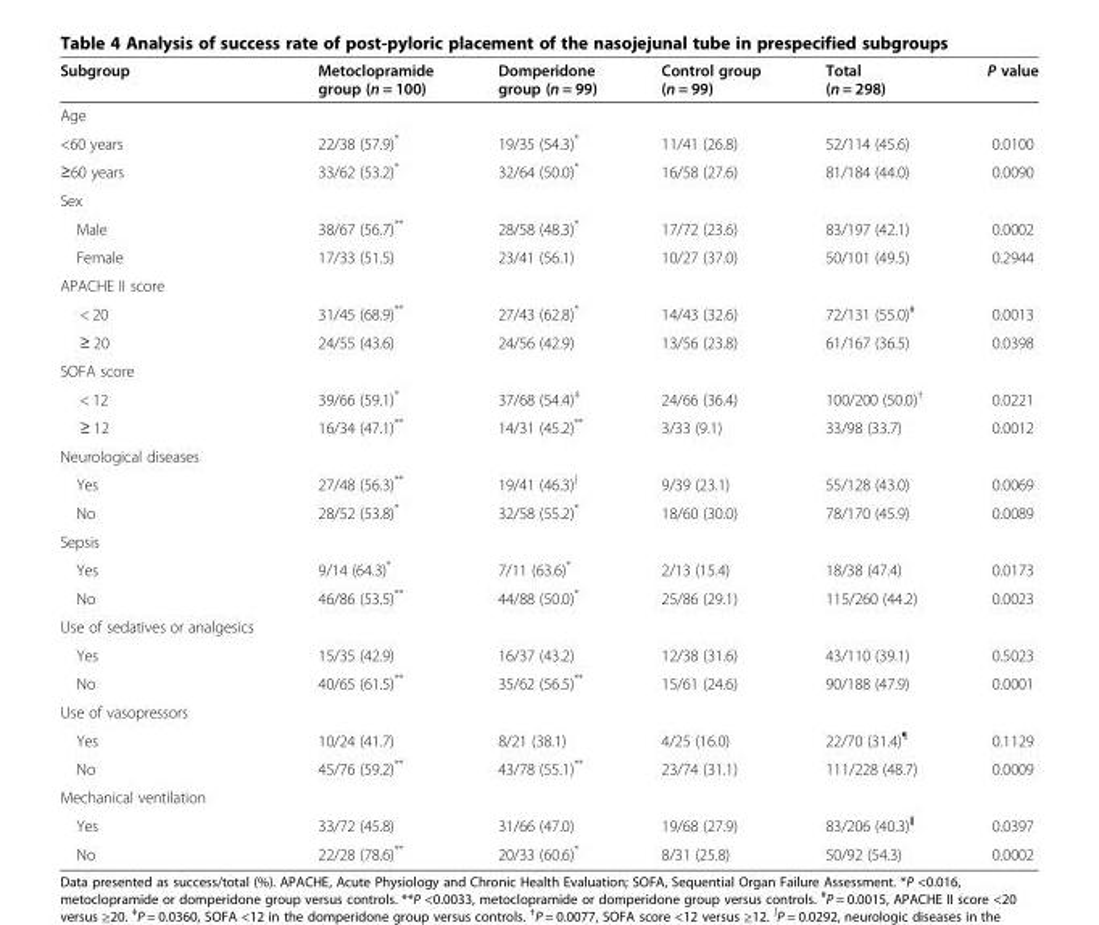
<table><thead><tr><td>Subgroup</td><td>Metoclopramide group (n = 100)</td><td>Domperidone group (n = 99)</td><td>Control group (n = 99)</td><td>Total (n = 298)</td><td>P value</td></tr></thead><tbody><tr><td colspan="6">Age</td></tr><tr><td>&lt;60 years</td><td>22/38 (57.9)*</td><td>19/35 (54.3)*</td><td>11/41 (26.8)</td><td>52/114 (45.6)</td><td>0.0100</td></tr><tr><td>≥60 years</td><td>33/62 (53.2)*</td><td>32/64 (50.0)*</td><td>16/58 (27.6)</td><td>81/184 (44.0)</td><td>0.0090</td></tr><tr><td colspan="6">Sex</td></tr><tr><td>Male</td><td>38/67 (56.7)**</td><td>28/58 (48.3)*</td><td>17/72 (23.6)</td><td>83/197 (42.1)</td><td>0.0002</td></tr><tr><td>Female</td><td>17/33 (51.5)</td><td>23/41 (56.1)</td><td>10/27 (37.0)</td><td>50/101 (49.5)</td><td>0.2944</td></tr><tr><td colspan="6">APACHE II score</td></tr><tr><td>&lt; 20</td><td>31/45 (68.9)**</td><td>27/43 (62.8)*</td><td>14/43 (32.6)</td><td>72/131 (55.0)<sup>#</sup></td><td>0.0013</td></tr><tr><td>≥ 20</td><td>24/55 (43.6)</td><td>24/56 (42.9)</td><td>13/56 (23.8)</td><td>61/167 (36.5)</td><td>0.0398</td></tr><tr><td colspan="6">SOFA score</td></tr><tr><td>&lt; 12</td><td>39/66 (59.1)*</td><td>37/68 (54.4)<sup>‡</sup></td><td>24/66 (36.4)</td><td>100/200 (50.0)<sup>†</sup></td><td>0.0221</td></tr><tr><td>≥ 12</td><td>16/34 (47.1)**</td><td>14/31 (45.2)**</td><td>3/33 (9.1)</td><td>33/98 (33.7)</td><td>0.0012</td></tr><tr><td colspan="6">Neurological diseases</td></tr><tr><td>Yes</td><td>27/48 (56.3)**</td><td>19/41 (46.3)<sup>∫</sup></td><td>9/39 (23.1)</td><td>55/128 (43.0)</td><td>0.0069</td></tr><tr><td>No</td><td>28/52 (53.8)*</td><td>32/58 (55.2)*</td><td>18/60 (30.0)</td><td>78/170 (45.9)</td><td>0.0089</td></tr><tr><td colspan="6">Sepsis</td></tr><tr><td>Yes</td><td>9/14 (64.3)*</td><td>7/11 (63.6)*</td><td>2/13 (15.4)</td><td>18/38 (47.4)</td><td>0.0173</td></tr><tr><td>No</td><td>46/86 (53.5)**</td><td>44/88 (50.0)*</td><td>25/86 (29.1)</td><td>115/260 (44.2)</td><td>0.0023</td></tr><tr><td colspan="6">Use of sedatives or analgesics</td></tr><tr><td>Yes</td><td>15/35 (42.9)</td><td>16/37 (43.2)</td><td>12/38 (31.6)</td><td>43/110 (39.1)</td><td>0.5023</td></tr><tr><td>No</td><td>40/65 (61.5)**</td><td>35/62 (56.5)**</td><td>15/61 (24.6)</td><td>90/188 (47.9)</td><td>0.0001</td></tr><tr><td colspan="6">Use of vasopressors</td></tr><tr><td>Yes</td><td>10/24 (41.7)</td><td>8/21 (38.1)</td><td>4/25 (16.0)</td><td>22/70 (31.4)<sup>¶</sup></td><td>0.1129</td></tr><tr><td>No</td><td>45/76 (59.2)**</td><td>43/78 (55.1)**</td><td>23/74 (31.1)</td><td>111/228 (48.7)</td><td>0.0009</td></tr><tr><td colspan="6">Mechanical ventilation</td></tr><tr><td>Yes</td><td>33/72 (45.8)</td><td>31/66 (47.0)</td><td>19/68 (27.9)</td><td>83/206 (40.3)<sup>‖</sup></td><td>0.0397</td></tr><tr><td>No</td><td>22/28 (78.6)**</td><td>20/33 (60.6)*</td><td>8/31 (25.8)</td><td>50/92 (54.3)</td><td>0.0002</td></tr></tbody></table>